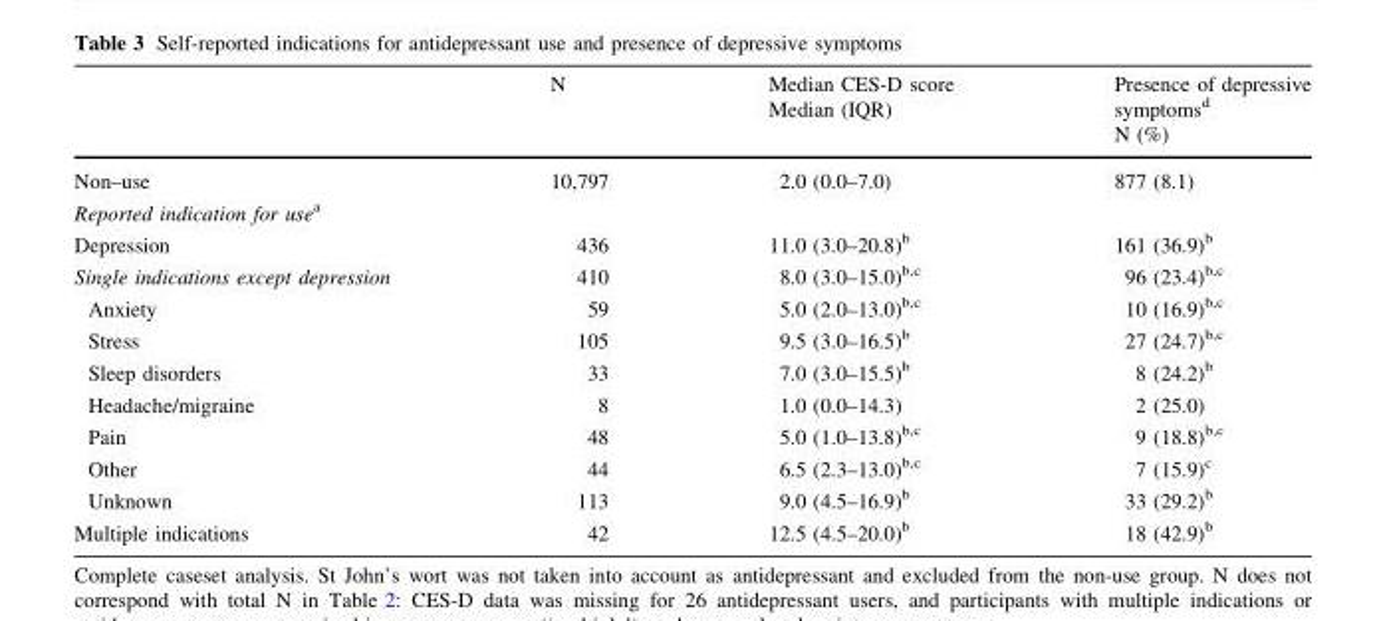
<table><thead><tr><td></td><td>N</td><td>Median CES-D score Median (IQR)</td><td>Presence of depressive symptoms<sup>d</sup> N (%)</td></tr></thead><tbody><tr><td>Non–use</td><td>10,797</td><td>2.0 (0.0–7.0)</td><td>877 (8.1)</td></tr><tr><td colspan="4">Reported indication for use<sup>a</sup></td></tr><tr><td>Depression</td><td>436</td><td>11.0 (3.0–20.8)<sup>b</sup></td><td>161 (36.9)<sup>b</sup></td></tr><tr><td>Single indications except depression</td><td>410</td><td>8.0 (3.0–15.0)<sup>b,c</sup></td><td>96 (23.4)<sup>b,c</sup></td></tr><tr><td>Anxiety</td><td>59</td><td>5.0 (2.0–13.0)<sup>b,c</sup></td><td>10 (16.9)<sup>b,c</sup></td></tr><tr><td>Stress</td><td>105</td><td>9.5 (3.0–16.5)<sup>b</sup></td><td>27 (24.7)<sup>b,c</sup></td></tr><tr><td>Sleep disorders</td><td>33</td><td>7.0 (3.0–15.5)<sup>b</sup></td><td>8 (24.2)<sup>b</sup></td></tr><tr><td>Headache/migraine</td><td>8</td><td>1.0 (0.0–14.3)</td><td>2 (25.0)</td></tr><tr><td>Pain</td><td>48</td><td>5.0 (1.0–13.8)<sup>b,c</sup></td><td>9 (18.8)<sup>b,c</sup></td></tr><tr><td>Other</td><td>44</td><td>6.5 (2.3–13.0)<sup>b,c</sup></td><td>7 (15.9)<sup>c</sup></td></tr><tr><td>Unknown</td><td>113</td><td>9.0 (4.5–16.9)<sup>b</sup></td><td>33 (29.2)<sup>b</sup></td></tr><tr><td>Multiple indications</td><td>42</td><td>12.5 (4.5–20.0)<sup>b</sup></td><td>18 (42.9)<sup>b</sup></td></tr></tbody></table>